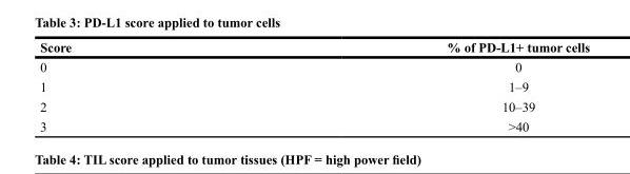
<table><thead><tr><td>Score</td><td>% of PD-L1+ tumor cells</td></tr></thead><tbody><tr><td>0</td><td>0</td></tr><tr><td>1</td><td>1–9</td></tr><tr><td>2</td><td>10–39</td></tr><tr><td>3</td><td>&gt;40</td></tr></tbody></table>